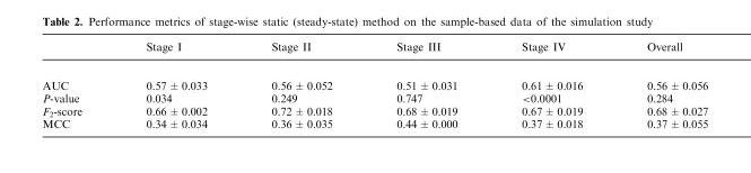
<table><thead><tr><td></td><td>Stage I</td><td>Stage II</td><td>Stage III</td><td>Stage IV</td><td>Overall</td></tr></thead><tbody><tr><td>AUC</td><td>0.57 ± 0.033</td><td>0.56 ± 0.052</td><td>0.51 ± 0.031</td><td>0.61 ± 0.016</td><td>0.56 ± 0.056</td></tr><tr><td>P-value</td><td>0.034</td><td>0.249</td><td>0.747</td><td>&lt;0.0001</td><td>0.284</td></tr><tr><td>F<sub>2</sub>-score</td><td>0.66 ± 0.002</td><td>0.72 ± 0.018</td><td>0.68 ± 0.019</td><td>0.67 ± 0.019</td><td>0.68 ± 0.027</td></tr><tr><td>MCC</td><td>0.34 ± 0.034</td><td>0.36 ± 0.035</td><td>0.44 ± 0.000</td><td>0.37 ± 0.018</td><td>0.37 ± 0.055</td></tr></tbody></table>